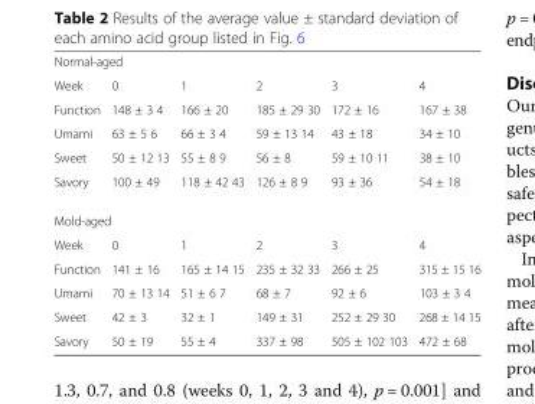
<table><tbody><tr><td colspan="6">Normal-aged</td></tr><tr><td>Week</td><td>0</td><td>1</td><td>2</td><td>3</td><td>4</td></tr><tr><td>Function</td><td>148 ± 3 4</td><td>166 ± 20</td><td>185 ± 29 30</td><td>172 ± 16</td><td>167 ± 38</td></tr><tr><td>Umami</td><td>63 ± 5 6</td><td>66 ± 3 4</td><td>59 ± 13 14</td><td>43 ± 18</td><td>34 ± 10</td></tr><tr><td>Sweet</td><td>50 ± 12 13</td><td>55 ± 8 9</td><td>56 ± 8</td><td>59 ± 10 11</td><td>38 ± 10</td></tr><tr><td>Savory</td><td>100 ± 49</td><td>118 ± 42 43</td><td>126 ± 8 9</td><td>93 ± 36</td><td>54 ± 18</td></tr><tr><td colspan="6">Mold-aged</td></tr><tr><td>Week</td><td>0</td><td>1</td><td>2</td><td>3</td><td>4</td></tr><tr><td>Function</td><td>141 ± 16</td><td>165 ± 14 15</td><td>235 ± 32 33</td><td>266 ± 25</td><td>315 ± 15 16</td></tr><tr><td>Umami</td><td>70 ± 13 14</td><td>51 ± 6 7</td><td>68 ± 7</td><td>92 ± 6</td><td>103 ± 3 4</td></tr><tr><td>Sweet</td><td>42 ± 3</td><td>32 ± 1</td><td>149 ± 31</td><td>252 ± 29 30</td><td>268 ± 14 15</td></tr><tr><td>Savory</td><td>50 ± 19</td><td>55 ± 4</td><td>337 ± 98</td><td>505 ± 102 103</td><td>472 ± 68</td></tr></tbody></table>